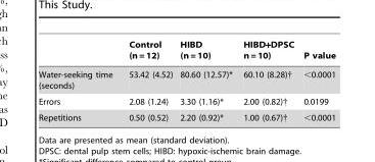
<table><thead><tr><td></td><td>Control (n = 12)</td><td>HIBD (n = 10)</td><td>HIBD+DPSC n = 10)</td><td>P value</td></tr></thead><tbody><tr><td>Water-seeking time (seconds)</td><td>53.42 (4.52)</td><td>80.60 (12.57)*</td><td>60.10 (8.28)†</td><td>&lt;0.0001</td></tr><tr><td>Errors</td><td>2.08 (1.24)</td><td>3.30 (1.16)*</td><td>2.00 (0.82)†</td><td>0.0199</td></tr><tr><td>Repetitions</td><td>0.50 (0.52)</td><td>2.20 (0.92)*</td><td>1.00 (0.67)†</td><td>&lt;0.0001</td></tr></tbody></table>